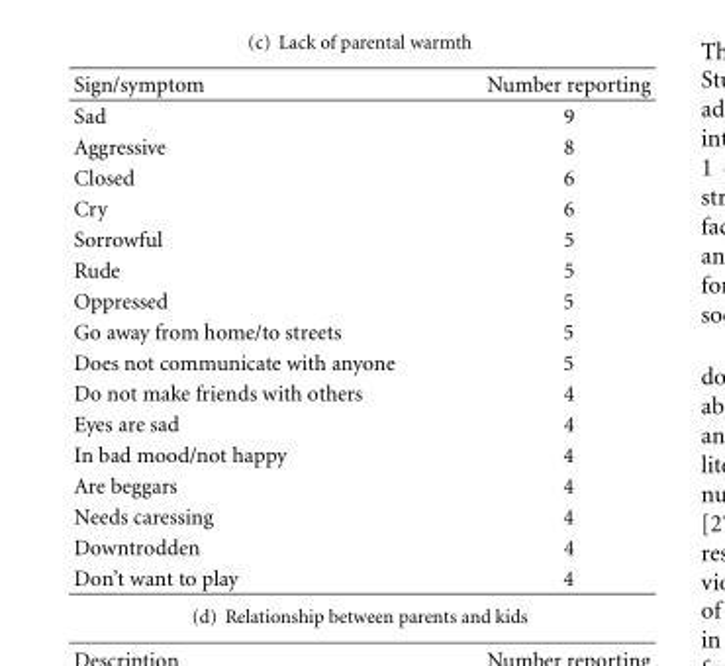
<table><thead><tr><td>Sign/symptom</td><td>Number reporting</td></tr></thead><tbody><tr><td>Sad</td><td>9</td></tr><tr><td>Aggressive</td><td>8</td></tr><tr><td>Closed</td><td>6</td></tr><tr><td>Cry</td><td>6</td></tr><tr><td>Sorrowful</td><td>5</td></tr><tr><td>Rude</td><td>5</td></tr><tr><td>Oppressed</td><td>5</td></tr><tr><td>Go away from home/to streets</td><td>5</td></tr><tr><td>Does not communicate with anyone</td><td>5</td></tr><tr><td>Do not make friends with others</td><td>4</td></tr><tr><td>Eyes are sad</td><td>4</td></tr><tr><td>In bad mood/not happy</td><td>4</td></tr><tr><td>Are beggars</td><td>4</td></tr><tr><td>Needs caressing</td><td>4</td></tr><tr><td>Downtrodden</td><td>4</td></tr><tr><td>Don’t want to play</td><td>4</td></tr></tbody></table>